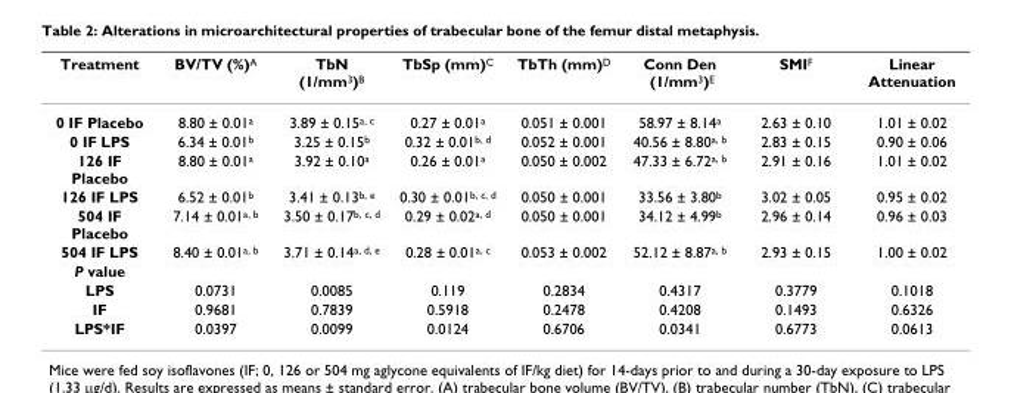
<table><thead><tr><td>Treatment</td><td>BV/TV (%)<sup>A</sup></td><td>TbN (1/mm<sup>3</sup>)<sup>B</sup></td><td>TbSp (mm)<sup>C</sup></td><td>TbTh (mm)<sup>D</sup></td><td>Conn Den (1/mm<sup>3</sup>)<sup>E</sup></td><td>SMI<sup>F</sup></td><td>Linear Attenuation</td></tr></thead><tbody><tr><td>0 IF Placebo</td><td>8.80 ± 0.01<sup>a</sup></td><td>3.89 ± 0.15<sup>a, c</sup></td><td>0.27 ± 0.01<sup>a</sup></td><td>0.051 ± 0.001</td><td>58.97 ± 8.14<sup>a</sup></td><td>2.63 ± 0.10</td><td>1.01 ± 0.02</td></tr><tr><td>0 IF LPS</td><td>6.34 ± 0.01<sup>b</sup></td><td>3.25 ± 0.15<sup>b</sup></td><td>0.32 ± 0.01<sup>b, d</sup></td><td>0.052 ± 0.001</td><td>40.56 ± 8.80<sup>a, b</sup></td><td>2.83 ± 0.15</td><td>0.90 ± 0.06</td></tr><tr><td>126 IF Placebo</td><td>8.80 ± 0.01<sup>a</sup></td><td>3.92 ± 0.10<sup>a</sup></td><td>0.26 ± 0.01<sup>a</sup></td><td>0.050 ± 0.002</td><td>47.33 ± 6.72<sup>a, b</sup></td><td>2.91 ± 0.16</td><td>1.01 ± 0.02</td></tr><tr><td>126 IF LPS</td><td>6.52 ± 0.01<sup>b</sup></td><td>3.41 ± 0.13<sup>b, e</sup></td><td>0.30 ± 0.01<sup>b, c, d</sup></td><td>0.050 ± 0.001</td><td>33.56 ± 3.80<sup>b</sup></td><td>3.02 ± 0.05</td><td>0.95 ± 0.02</td></tr><tr><td>504 IF Placebo</td><td>7.14 ± 0.01<sup>a, b</sup></td><td>3.50 ± 0.17<sup>b, c, d</sup></td><td>0.29 ± 0.02<sup>a, d</sup></td><td>0.050 ± 0.001</td><td>34.12 ± 4.99<sup>b</sup></td><td>2.96 ± 0.14</td><td>0.96 ± 0.03</td></tr><tr><td>504 IF LPS</td><td>8.40 ± 0.01<sup>a, b</sup></td><td>3.71 ± 0.14<sup>a, d, e</sup></td><td>0.28 ± 0.01<sup>a, c</sup></td><td>0.053 ± 0.002</td><td>52.12 ± 8.87<sup>a, b</sup></td><td>2.93 ± 0.15</td><td>1.00 ± 0.02</td></tr><tr><td colspan="8">P value</td></tr><tr><td>LPS</td><td>0.0731</td><td>0.0085</td><td>0.119</td><td>0.2834</td><td>0.4317</td><td>0.3779</td><td>0.1018</td></tr><tr><td>IF</td><td>0.9681</td><td>0.7839</td><td>0.5918</td><td>0.2478</td><td>0.4208</td><td>0.1493</td><td>0.6326</td></tr><tr><td>LPS*IF</td><td>0.0397</td><td>0.0099</td><td>0.0124</td><td>0.6706</td><td>0.0341</td><td>0.6773</td><td>0.0613</td></tr></tbody></table>